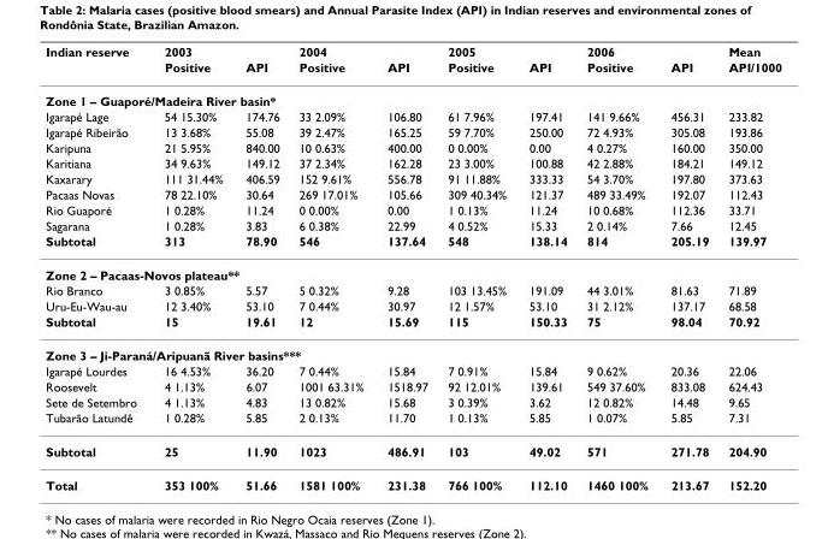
<table><thead><tr><td rowspan="2">Indian reserve</td><td colspan="2">2003</td><td colspan="2">2004</td><td colspan="2">2005</td><td colspan="2">2006</td><td rowspan="2">Mean API/1000</td></tr><tr><td>Positive</td><td>API</td><td>Positive</td><td>API</td><td>Positive</td><td>API</td><td>Positive</td><td>API</td></tr></thead><tbody><tr><td colspan="10">Zone 1 – Guaporé/Madeira River basin*</td></tr><tr><td>Igarapé Lage</td><td>54 15.30%</td><td>174.76</td><td>33 2.09%</td><td>106.80</td><td>61 7.96%</td><td>197.41</td><td>141 9.66%</td><td>456.31</td><td>233.82</td></tr><tr><td>Igarapé Ribeirão</td><td>13 3.68%</td><td>55.08</td><td>39 2.47%</td><td>165.25</td><td>59 7.70%</td><td>250.00</td><td>72 4.93%</td><td>305.08</td><td>193.86</td></tr><tr><td>Karipuna</td><td>21 5.95%</td><td>840.00</td><td>10 0.63%</td><td>400.00</td><td>0 0.00%</td><td>0.00</td><td>4 0.27%</td><td>160.00</td><td>350.00</td></tr><tr><td>Karitiana</td><td>34 9.63%</td><td>149.12</td><td>37 2.34%</td><td>162.28</td><td>23 3.00%</td><td>100.88</td><td>42 2.88%</td><td>184.21</td><td>149.12</td></tr><tr><td>Kaxarary</td><td>111 31.44%</td><td>406.59</td><td>152 9.61%</td><td>556.78</td><td>91 11.88%</td><td>333.33</td><td>54 3.70%</td><td>197.80</td><td>373.63</td></tr><tr><td>Pacaas Novas</td><td>78 22.10%</td><td>30.64</td><td>269 17.01%</td><td>105.66</td><td>309 40.34%</td><td>121.37</td><td>489 33.49%</td><td>192.07</td><td>112.43</td></tr><tr><td>Rio Guaporé</td><td>1 0.28%</td><td>11.24</td><td>0 0.00%</td><td>0.00</td><td>1 0.13%</td><td>11.24</td><td>10 0.68%</td><td>112.36</td><td>33.71</td></tr><tr><td>Sagarana</td><td>1 0.28%</td><td>3.83</td><td>6 0.38%</td><td>22.99</td><td>4 0.52%</td><td>15.33</td><td>2 0.14%</td><td>7.66</td><td>12.45</td></tr><tr><td>Subtotal</td><td>313</td><td>78.90</td><td>546</td><td>137.64</td><td>548</td><td>138.14</td><td>814</td><td>205.19</td><td>139.97</td></tr><tr><td colspan="10">Zone 2 – Pacaas-Novos plateau**</td></tr><tr><td>Rio Branco</td><td>3 0.85%</td><td>5.57</td><td>5 0.32%</td><td>9.28</td><td>103 13.45%</td><td>191.09</td><td>44 3.01%</td><td>81.63</td><td>71.89</td></tr><tr><td>Uru-Eu-Wau-au</td><td>12 3.40%</td><td>53.10</td><td>7 0.44%</td><td>30.97</td><td>12 1.57%</td><td>53.10</td><td>31 2.12%</td><td>137.17</td><td>68.58</td></tr><tr><td>Subtotal</td><td>15</td><td>19.61</td><td>12</td><td>15.69</td><td>115</td><td>150.33</td><td>75</td><td>98.04</td><td>70.92</td></tr><tr><td colspan="10">Zone 3 – Ji-Paraná/Aripuanã River basins***</td></tr><tr><td>Igarapé Lourdes</td><td>16 4.53%</td><td>36.20</td><td>7 0.44%</td><td>15.84</td><td>7 0.91%</td><td>15.84</td><td>9 0.62%</td><td>20.36</td><td>22.06</td></tr><tr><td>Roosevelt</td><td>4 1.13%</td><td>6.07</td><td>1001 63.31%</td><td>1518.97</td><td>92 12.01%</td><td>139.61</td><td>549 37.60%</td><td>833.08</td><td>624.43</td></tr><tr><td>Sete de Setembro</td><td>4 1.13%</td><td>4.83</td><td>13 0.82%</td><td>15.68</td><td>3 0.39%</td><td>3.62</td><td>12 0.82%</td><td>14.48</td><td>9.65</td></tr><tr><td>Tubarão Latundê</td><td>1 0.28%</td><td>5.85</td><td>2 0.13%</td><td>11.70</td><td>1 0.13%</td><td>5.85</td><td>1 0.07%</td><td>5.85</td><td>7.31</td></tr><tr><td>Subtotal</td><td>25</td><td>11.90</td><td>1023</td><td>486.91</td><td>103</td><td>49.02</td><td>571</td><td>271.78</td><td>204.90</td></tr><tr><td>Total</td><td>353 100%</td><td>51.66</td><td>1581 100%</td><td>231.38</td><td>766 100%</td><td>112.10</td><td>1460 100%</td><td>213.67</td><td>152.20</td></tr></tbody></table>